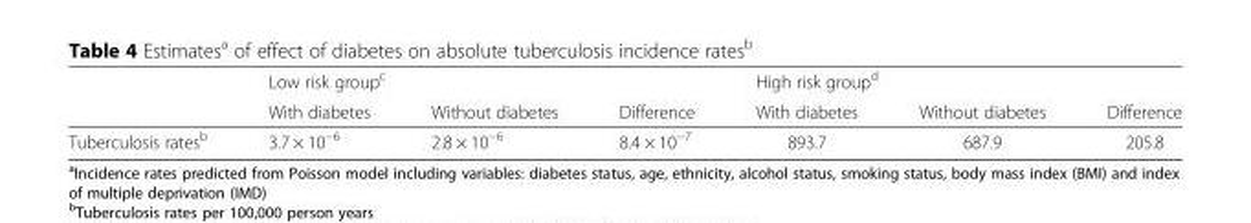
<table><thead><tr><td rowspan="2"></td><td colspan="3">Low risk group<sup>c</sup></td><td colspan="3">High risk group<sup>d</sup></td></tr><tr><td>With diabetes</td><td>Without diabetes</td><td>Difference</td><td>With diabetes</td><td>Without diabetes</td><td>Difference</td></tr></thead><tbody><tr><td>Tuberculosis rates<sup>b</sup></td><td>3.7 × 10<sup>−6</sup></td><td>2.8 × 10<sup>−6</sup></td><td>8.4 × 10<sup>−7</sup></td><td>893.7</td><td>687.9</td><td>205.8</td></tr></tbody></table>